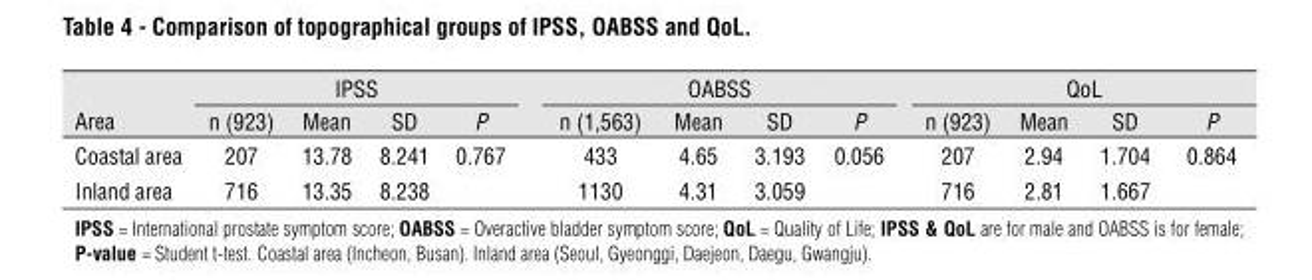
<table><thead><tr><td rowspan="2">Area</td><td colspan="4">IPSS</td><td colspan="4">OABSS</td><td colspan="4">QoL</td></tr><tr><td>n (923)</td><td>Mean</td><td>SD</td><td>P</td><td>n (1,563)</td><td>Mean</td><td>SD</td><td>P</td><td>n (923)</td><td>Mean</td><td>SD</td><td>P</td></tr></thead><tbody><tr><td>Coastal area</td><td>207</td><td>13.78</td><td>8.241</td><td>0.767</td><td>433</td><td>4.65</td><td>3.193</td><td>0.056</td><td>207</td><td>2.94</td><td>1.704</td><td>0.864</td></tr><tr><td>Inland area</td><td>716</td><td>13.35</td><td>8.238</td><td></td><td>1130</td><td>4.31</td><td>3.059</td><td></td><td>716</td><td>2.81</td><td>1.667</td><td></td></tr></tbody></table>